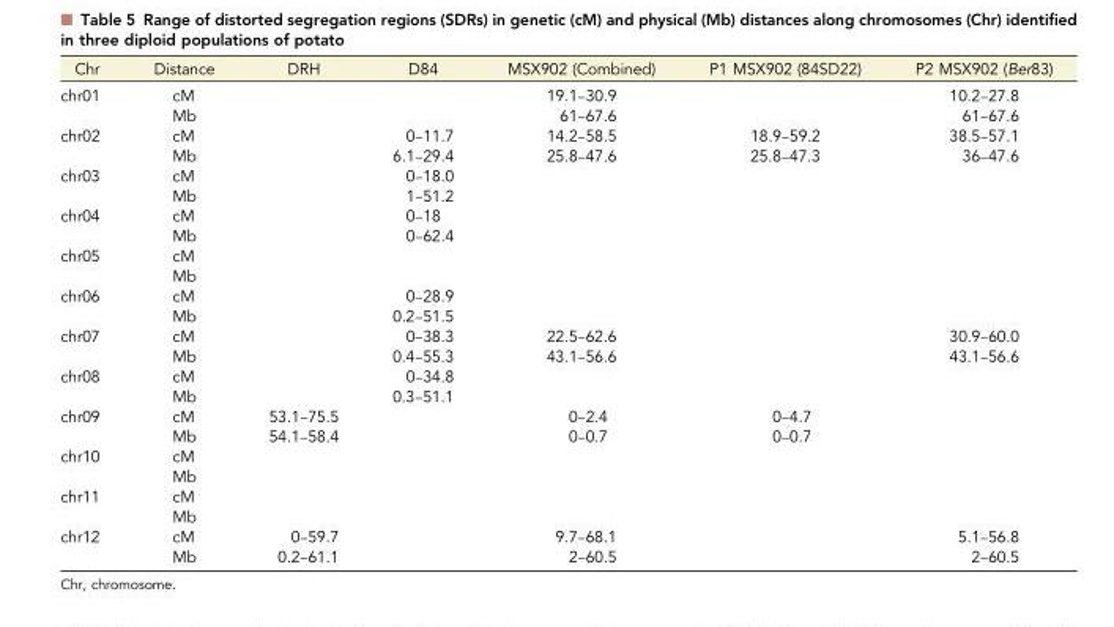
<table><thead><tr><td>Chr</td><td>Distance</td><td>DRH</td><td>D84</td><td>MSX902 (Combined)</td><td>P1 MSX902 (84SD22)</td><td>P2 MSX902 (Ber83)</td></tr></thead><tbody><tr><td rowspan="2">chr01</td><td>cM</td><td></td><td></td><td>19.1–30.9</td><td></td><td>10.2–27.8</td></tr><tr><td>Mb</td><td></td><td></td><td>61–67.6</td><td></td><td>61–67.6</td></tr><tr><td rowspan="2">chr02</td><td>cM</td><td></td><td>0–11.7</td><td>14.2–58.5</td><td>18.9–59.2</td><td>38.5–57.1</td></tr><tr><td>Mb</td><td></td><td>6.1–29.4</td><td>25.8–47.6</td><td>25.8–47.3</td><td>36–47.6</td></tr><tr><td rowspan="2">chr03</td><td>cM</td><td></td><td>0–18.0</td><td></td><td></td><td></td></tr><tr><td>Mb</td><td></td><td>1–51.2</td><td></td><td></td><td></td></tr><tr><td rowspan="2">chr04</td><td>cM</td><td></td><td>0–18</td><td></td><td></td><td></td></tr><tr><td>Mb</td><td></td><td>0–62.4</td><td></td><td></td><td></td></tr><tr><td rowspan="2">chr05</td><td>cM</td><td></td><td></td><td></td><td></td><td></td></tr><tr><td>Mb</td><td></td><td></td><td></td><td></td><td></td></tr><tr><td rowspan="2">chr06</td><td>cM</td><td></td><td>0–28.9</td><td></td><td></td><td></td></tr><tr><td>Mb</td><td></td><td>0.2–51.5</td><td></td><td></td><td></td></tr><tr><td rowspan="2">chr07</td><td>cM</td><td></td><td>0–38.3</td><td>22.5–62.6</td><td></td><td>30.9–60.0</td></tr><tr><td>Mb</td><td></td><td>0.4–55.3</td><td>43.1–56.6</td><td></td><td>43.1–56.6</td></tr><tr><td rowspan="2">chr08</td><td>cM</td><td></td><td>0–34.8</td><td></td><td></td><td></td></tr><tr><td>Mb</td><td></td><td>0.3–51.1</td><td></td><td></td><td></td></tr><tr><td rowspan="2">chr09</td><td>cM</td><td>53.1–75.5</td><td></td><td>0–2.4</td><td>0–4.7</td><td></td></tr><tr><td>Mb</td><td>54.1–58.4</td><td></td><td>0–0.7</td><td>0–0.7</td><td></td></tr><tr><td rowspan="2">chr10</td><td>cM</td><td></td><td></td><td></td><td></td><td></td></tr><tr><td>Mb</td><td></td><td></td><td></td><td></td><td></td></tr><tr><td rowspan="2">chr11</td><td>cM</td><td></td><td></td><td></td><td></td><td></td></tr><tr><td>Mb</td><td></td><td></td><td></td><td></td><td></td></tr><tr><td rowspan="2">chr12</td><td>cM</td><td>0–59.7</td><td></td><td>9.7–68.1</td><td></td><td>5.1–56.8</td></tr><tr><td>Mb</td><td>0.2–61.1</td><td></td><td>2–60.5</td><td></td><td>2–60.5</td></tr></tbody></table>